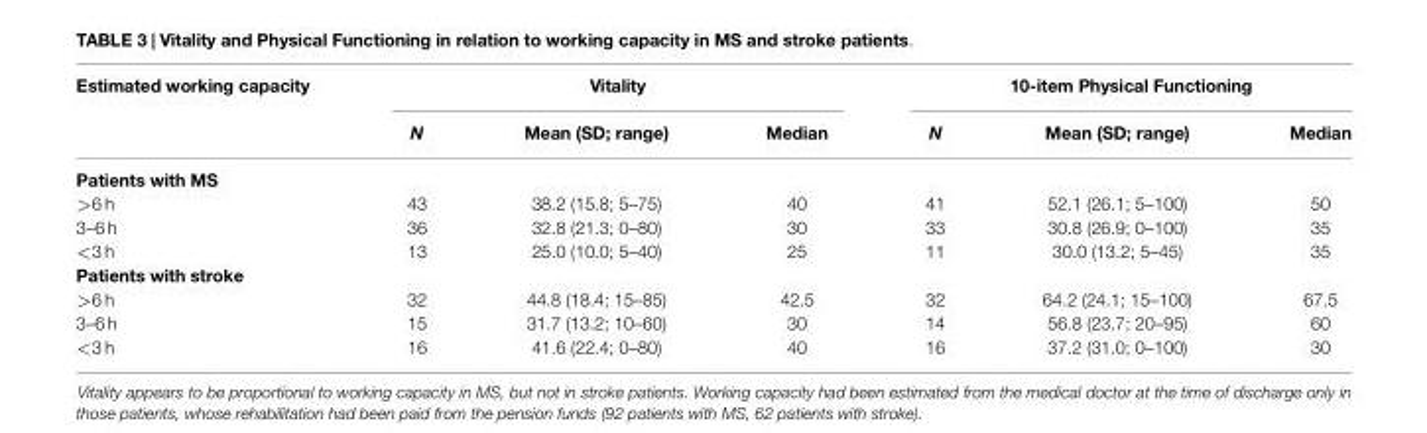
<table><thead><tr><td rowspan="2">Estimated working capacity</td><td colspan="3">Vitality</td><td colspan="3">10-item Physical Functioning</td></tr><tr><td>N</td><td>Mean (SD; range)</td><td>Median</td><td>N</td><td>Mean (SD; range)</td><td>Median</td></tr></thead><tbody><tr><td colspan="7">Patients with MS</td></tr><tr><td>&gt;6 h</td><td>43</td><td>38.2 (15.8; 5–75)</td><td>40</td><td>41</td><td>52.1 (26.1; 5–100)</td><td>50</td></tr><tr><td>3–6 h</td><td>36</td><td>32.8 (21.3; 0–80)</td><td>30</td><td>33</td><td>30.8 (26.9; 0–100)</td><td>35</td></tr><tr><td>&lt;3 h</td><td>13</td><td>25.0 (10.0; 5–40)</td><td>25</td><td>11</td><td>30.0 (13.2; 5–45)</td><td>35</td></tr><tr><td colspan="7">Patients with stroke</td></tr><tr><td>&gt;6 h</td><td>32</td><td>44.8 (18.4; 15–85)</td><td>42.5</td><td>32</td><td>64.2 (24.1; 15–100)</td><td>67.5</td></tr><tr><td>3–6 h</td><td>15</td><td>31.7 (13.2; 10–60)</td><td>30</td><td>14</td><td>56.8 (23.7; 20–95)</td><td>60</td></tr><tr><td>&lt;3 h</td><td>16</td><td>41.6 (22.4; 0–80)</td><td>40</td><td>16</td><td>37.2 (31.0; 0–100)</td><td>30</td></tr></tbody></table>